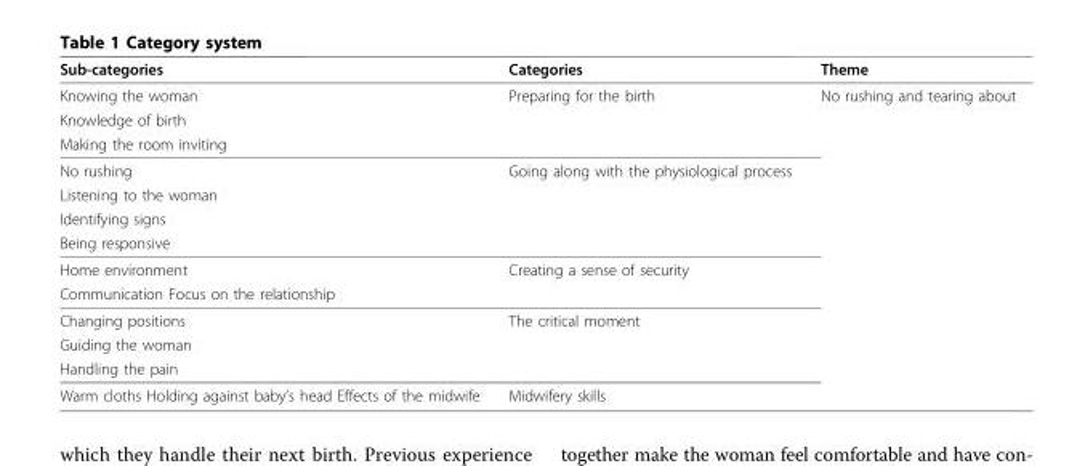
<table><thead><tr><td>Sub-categories</td><td>Categories</td><td>Theme</td></tr></thead><tbody><tr><td>Knowing the woman</td><td>Preparing for the birth</td><td>No rushing and tearing about</td></tr><tr><td colspan="3">Knowledge of birth</td></tr><tr><td colspan="3">Making the room inviting</td></tr><tr><td>No rushing</td><td>Going along with the physiological process</td><td></td></tr><tr><td colspan="3">Listening to the woman</td></tr><tr><td colspan="3">Identifying signs</td></tr><tr><td colspan="3">Being responsive</td></tr><tr><td>Home environment</td><td>Creating a sense of security</td><td></td></tr><tr><td colspan="3">Communication Focus on the relationship</td></tr><tr><td>Changing positions</td><td>The critical moment</td><td></td></tr><tr><td colspan="3">Guiding the woman</td></tr><tr><td colspan="3">Handling the pain</td></tr><tr><td>Warm cloths Holding against baby’s head Effects of the midwife</td><td>Midwifery skills</td><td></td></tr></tbody></table>